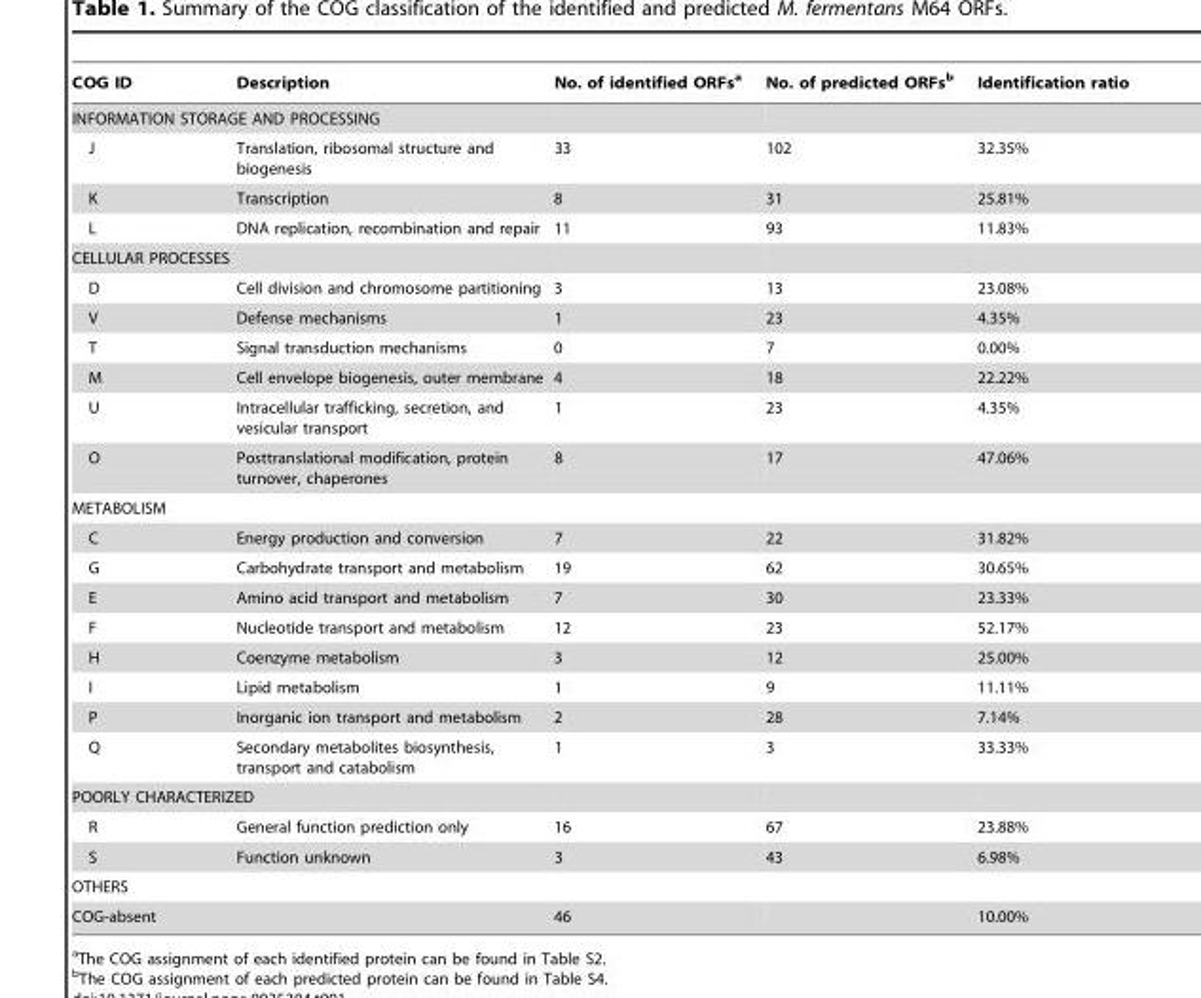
<table><thead><tr><td>COG ID</td><td>Description</td><td>No. of identified ORFs<sup>a</sup></td><td>No. of predicted ORFs<sup>b</sup></td><td>Identification ratio</td></tr></thead><tbody><tr><td colspan="5">INFORMATION STORAGE AND PROCESSING</td></tr><tr><td>J</td><td>Translation, ribosomal structure and biogenesis</td><td>33</td><td>102</td><td>32.35%</td></tr><tr><td>K</td><td>Transcription</td><td>8</td><td>31</td><td>25.81%</td></tr><tr><td>L</td><td>DNA replication, recombination and repair</td><td>11</td><td>93</td><td>11.83%</td></tr><tr><td colspan="5">CELLULAR PROCESSES</td></tr><tr><td>D</td><td>Cell division and chromosome partitioning</td><td>3</td><td>13</td><td>23.08%</td></tr><tr><td>V</td><td>Defense mechanisms</td><td>1</td><td>23</td><td>4.35%</td></tr><tr><td>T</td><td>Signal transduction mechanisms</td><td>0</td><td>7</td><td>0.00%</td></tr><tr><td>M</td><td>Cell envelope biogenesis, outer membrane</td><td>4</td><td>18</td><td>22.22%</td></tr><tr><td>U</td><td>Intracellular trafficking, secretion, and vesicular transport</td><td>1</td><td>23</td><td>4.35%</td></tr><tr><td>O</td><td>Posttranslational modification, protein turnover, chaperones</td><td>8</td><td>17</td><td>47.06%</td></tr><tr><td colspan="5">METABOLISM</td></tr><tr><td>C</td><td>Energy production and conversion</td><td>7</td><td>22</td><td>31.82%</td></tr><tr><td>G</td><td>Carbohydrate transport and metabolism</td><td>19</td><td>62</td><td>30.65%</td></tr><tr><td>E</td><td>Amino acid transport and metabolism</td><td>7</td><td>30</td><td>23.33%</td></tr><tr><td>F</td><td>Nucleotide transport and metabolism</td><td>12</td><td>23</td><td>52.17%</td></tr><tr><td>H</td><td>Coenzyme metabolism</td><td>3</td><td>12</td><td>25.00%</td></tr><tr><td>I</td><td>Lipid metabolism</td><td>1</td><td>9</td><td>11.11%</td></tr><tr><td>P</td><td>Inorganic ion transport and metabolism</td><td>2</td><td>28</td><td>7.14%</td></tr><tr><td>Q</td><td>Secondary metabolites biosynthesis, transport and catabolism</td><td>1</td><td>3</td><td>33.33%</td></tr><tr><td colspan="5">POORLY CHARACTERIZED</td></tr><tr><td>R</td><td>General function prediction only</td><td>16</td><td>67</td><td>23.88%</td></tr><tr><td>S</td><td>Function unknown</td><td>3</td><td>43</td><td>6.98%</td></tr><tr><td colspan="5">OTHERS</td></tr><tr><td colspan="2">COG-absent</td><td>46</td><td></td><td>10.00%</td></tr></tbody></table>